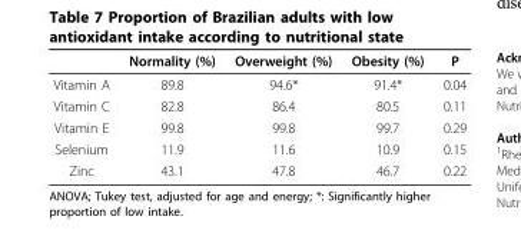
<table><thead><tr><td></td><td>Normality (%)</td><td>Overweight (%)</td><td>Obesity (%)</td><td>P</td></tr></thead><tbody><tr><td>Vitamin A</td><td>89.8</td><td>94.6*</td><td>91.4*</td><td>0.04</td></tr><tr><td>Vitamin C</td><td>82.8</td><td>86.4</td><td>80.5</td><td>0.11</td></tr><tr><td>Vitamin E</td><td>99.8</td><td>99.8</td><td>99.7</td><td>0.29</td></tr><tr><td>Selenium</td><td>11.9</td><td>11.6</td><td>10.9</td><td>0.15</td></tr><tr><td>Zinc</td><td>43.1</td><td>47.8</td><td>46.7</td><td>0.22</td></tr></tbody></table>